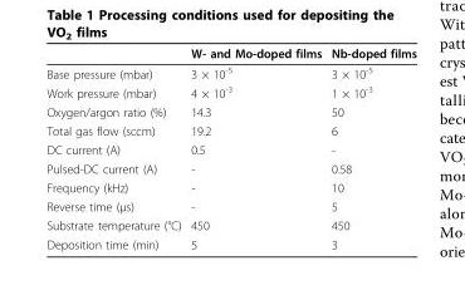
<table><thead><tr><td></td><td>W- and Mo-doped films</td><td>Nb-doped films</td></tr></thead><tbody><tr><td>Base pressure (mbar)</td><td>3 × 10<sup>-5</sup></td><td>3 × 10<sup>-5</sup></td></tr><tr><td>Work pressure (mbar)</td><td>4 × 10<sup>-3</sup></td><td>1 × 10<sup>-3</sup></td></tr><tr><td>Oxygen/argon ratio (%)</td><td>14.3</td><td>50</td></tr><tr><td>Total gas flow (sccm)</td><td>19.2</td><td>6</td></tr><tr><td>DC current (A)</td><td>0.5</td><td>-</td></tr><tr><td>Pulsed-DC current (A)</td><td>-</td><td>0.58</td></tr><tr><td>Frequency (kHz)</td><td>-</td><td>10</td></tr><tr><td>Reverse time (μs)</td><td>-</td><td>5</td></tr><tr><td>Substrate temperature (°C)</td><td>450</td><td>450</td></tr><tr><td>Deposition time (min)</td><td>5</td><td>3</td></tr></tbody></table>